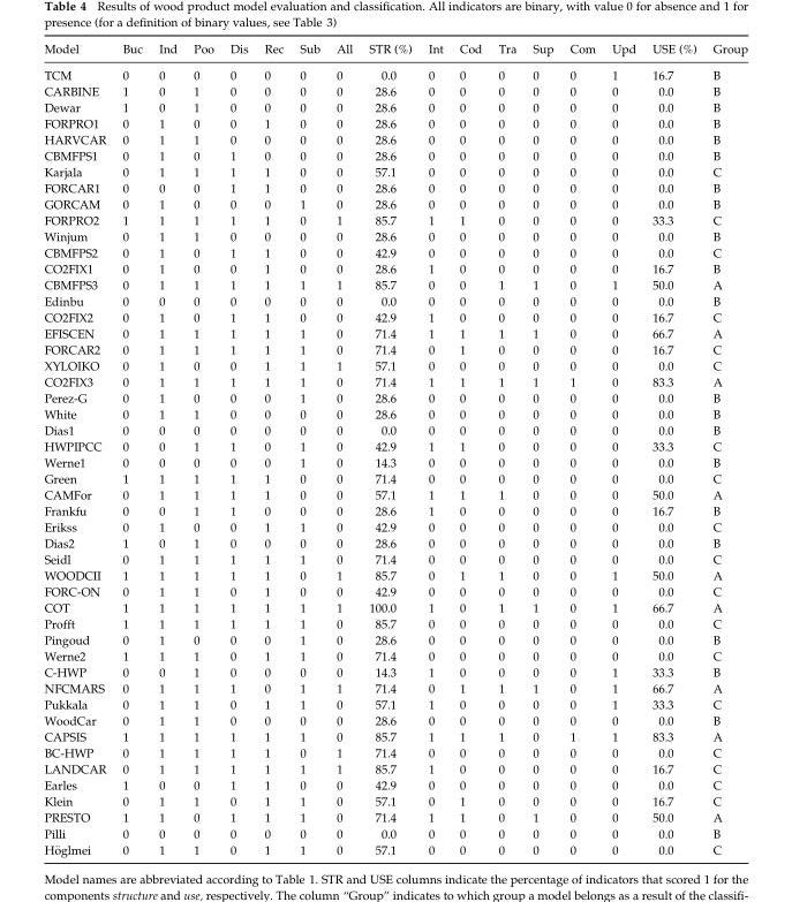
<table><thead><tr><td>Model</td><td>Buc</td><td>Ind</td><td>Poo</td><td>Dis</td><td>Rec</td><td>Sub</td><td>All</td><td>STR (%)</td><td>Int</td><td>Cod</td><td>Tra</td><td>Sup</td><td>Com</td><td>Upd</td><td>USE (%)</td><td>Group</td></tr></thead><tbody><tr><td>TCM</td><td>0</td><td>0</td><td>0</td><td>0</td><td>0</td><td>0</td><td>0</td><td>0.0</td><td>0</td><td>0</td><td>0</td><td>0</td><td>0</td><td>1</td><td>16.7</td><td>B</td></tr><tr><td>CARBINE</td><td>1</td><td>0</td><td>1</td><td>0</td><td>0</td><td>0</td><td>0</td><td>28.6</td><td>0</td><td>0</td><td>0</td><td>0</td><td>0</td><td>0</td><td>0.0</td><td>B</td></tr><tr><td>Dewar</td><td>1</td><td>0</td><td>1</td><td>0</td><td>0</td><td>0</td><td>0</td><td>28.6</td><td>0</td><td>0</td><td>0</td><td>0</td><td>0</td><td>0</td><td>0.0</td><td>B</td></tr><tr><td>FORPRO1</td><td>0</td><td>1</td><td>0</td><td>0</td><td>1</td><td>0</td><td>0</td><td>28.6</td><td>0</td><td>0</td><td>0</td><td>0</td><td>0</td><td>0</td><td>0.0</td><td>B</td></tr><tr><td>HARVCAR</td><td>0</td><td>1</td><td>1</td><td>0</td><td>0</td><td>0</td><td>0</td><td>28.6</td><td>0</td><td>0</td><td>0</td><td>0</td><td>0</td><td>0</td><td>0.0</td><td>B</td></tr><tr><td>CBMFPS1</td><td>0</td><td>1</td><td>0</td><td>1</td><td>0</td><td>0</td><td>0</td><td>28.6</td><td>0</td><td>0</td><td>0</td><td>0</td><td>0</td><td>0</td><td>0.0</td><td>B</td></tr><tr><td>Karjala</td><td>0</td><td>1</td><td>1</td><td>1</td><td>1</td><td>0</td><td>0</td><td>57.1</td><td>0</td><td>0</td><td>0</td><td>0</td><td>0</td><td>0</td><td>0.0</td><td>C</td></tr><tr><td>FORCAR1</td><td>0</td><td>0</td><td>0</td><td>1</td><td>1</td><td>0</td><td>0</td><td>28.6</td><td>0</td><td>0</td><td>0</td><td>0</td><td>0</td><td>0</td><td>0.0</td><td>B</td></tr><tr><td>GORCAM</td><td>0</td><td>1</td><td>0</td><td>0</td><td>0</td><td>1</td><td>0</td><td>28.6</td><td>0</td><td>0</td><td>0</td><td>0</td><td>0</td><td>0</td><td>0.0</td><td>B</td></tr><tr><td>FORPRO2</td><td>1</td><td>1</td><td>1</td><td>1</td><td>1</td><td>0</td><td>1</td><td>85.7</td><td>1</td><td>1</td><td>0</td><td>0</td><td>0</td><td>0</td><td>33.3</td><td>C</td></tr><tr><td>Winjum</td><td>0</td><td>1</td><td>1</td><td>0</td><td>0</td><td>0</td><td>0</td><td>28.6</td><td>0</td><td>0</td><td>0</td><td>0</td><td>0</td><td>0</td><td>0.0</td><td>B</td></tr><tr><td>CBMFPS2</td><td>0</td><td>1</td><td>0</td><td>1</td><td>1</td><td>0</td><td>0</td><td>42.9</td><td>0</td><td>0</td><td>0</td><td>0</td><td>0</td><td>0</td><td>0.0</td><td>C</td></tr><tr><td>CO2FIX1</td><td>0</td><td>1</td><td>0</td><td>0</td><td>1</td><td>0</td><td>0</td><td>28.6</td><td>1</td><td>0</td><td>0</td><td>0</td><td>0</td><td>0</td><td>16.7</td><td>B</td></tr><tr><td>CBMFPS3</td><td>0</td><td>1</td><td>1</td><td>1</td><td>1</td><td>1</td><td>1</td><td>85.7</td><td>0</td><td>0</td><td>1</td><td>1</td><td>0</td><td>1</td><td>50.0</td><td>A</td></tr><tr><td>Edinbu</td><td>0</td><td>0</td><td>0</td><td>0</td><td>0</td><td>0</td><td>0</td><td>0.0</td><td>0</td><td>0</td><td>0</td><td>0</td><td>0</td><td>0</td><td>0.0</td><td>B</td></tr><tr><td>CO2FIX2</td><td>0</td><td>1</td><td>0</td><td>1</td><td>1</td><td>0</td><td>0</td><td>42.9</td><td>1</td><td>0</td><td>0</td><td>0</td><td>0</td><td>0</td><td>16.7</td><td>C</td></tr><tr><td>EFISCEN</td><td>0</td><td>1</td><td>1</td><td>1</td><td>1</td><td>1</td><td>0</td><td>71.4</td><td>1</td><td>1</td><td>1</td><td>1</td><td>0</td><td>0</td><td>66.7</td><td>A</td></tr><tr><td>FORCAR2</td><td>0</td><td>1</td><td>1</td><td>1</td><td>1</td><td>1</td><td>0</td><td>71.4</td><td>0</td><td>1</td><td>0</td><td>0</td><td>0</td><td>0</td><td>16.7</td><td>C</td></tr><tr><td>XYLOIKO</td><td>0</td><td>1</td><td>0</td><td>0</td><td>1</td><td>1</td><td>1</td><td>57.1</td><td>0</td><td>0</td><td>0</td><td>0</td><td>0</td><td>0</td><td>0.0</td><td>C</td></tr><tr><td>CO2FIX3</td><td>0</td><td>1</td><td>1</td><td>1</td><td>1</td><td>1</td><td>0</td><td>71.4</td><td>1</td><td>1</td><td>1</td><td>1</td><td>1</td><td>0</td><td>83.3</td><td>A</td></tr><tr><td>Perez-G</td><td>0</td><td>1</td><td>0</td><td>0</td><td>0</td><td>1</td><td>0</td><td>28.6</td><td>0</td><td>0</td><td>0</td><td>0</td><td>0</td><td>0</td><td>0.0</td><td>B</td></tr><tr><td>White</td><td>0</td><td>1</td><td>1</td><td>0</td><td>0</td><td>0</td><td>0</td><td>28.6</td><td>0</td><td>0</td><td>0</td><td>0</td><td>0</td><td>0</td><td>0.0</td><td>B</td></tr><tr><td>Dias1</td><td>0</td><td>0</td><td>0</td><td>0</td><td>0</td><td>0</td><td>0</td><td>0.0</td><td>0</td><td>0</td><td>0</td><td>0</td><td>0</td><td>0</td><td>0.0</td><td>B</td></tr><tr><td>HWPIPCC</td><td>0</td><td>0</td><td>1</td><td>1</td><td>0</td><td>1</td><td>0</td><td>42.9</td><td>1</td><td>1</td><td>0</td><td>0</td><td>0</td><td>0</td><td>33.3</td><td>C</td></tr><tr><td>Werne1</td><td>0</td><td>0</td><td>0</td><td>0</td><td>0</td><td>1</td><td>0</td><td>14.3</td><td>0</td><td>0</td><td>0</td><td>0</td><td>0</td><td>0</td><td>0.0</td><td>B</td></tr><tr><td>Green</td><td>1</td><td>1</td><td>1</td><td>1</td><td>1</td><td>0</td><td>0</td><td>71.4</td><td>0</td><td>0</td><td>0</td><td>0</td><td>0</td><td>0</td><td>0.0</td><td>C</td></tr><tr><td>CAMFor</td><td>0</td><td>1</td><td>1</td><td>1</td><td>1</td><td>0</td><td>0</td><td>57.1</td><td>1</td><td>1</td><td>1</td><td>0</td><td>0</td><td>0</td><td>50.0</td><td>A</td></tr><tr><td>Frankfu</td><td>0</td><td>0</td><td>1</td><td>1</td><td>0</td><td>0</td><td>0</td><td>28.6</td><td>1</td><td>0</td><td>0</td><td>0</td><td>0</td><td>0</td><td>16.7</td><td>B</td></tr><tr><td>Erikss</td><td>0</td><td>1</td><td>0</td><td>0</td><td>1</td><td>1</td><td>0</td><td>42.9</td><td>0</td><td>0</td><td>0</td><td>0</td><td>0</td><td>0</td><td>0.0</td><td>C</td></tr><tr><td>Dias2</td><td>1</td><td>0</td><td>1</td><td>0</td><td>0</td><td>0</td><td>0</td><td>28.6</td><td>0</td><td>0</td><td>0</td><td>0</td><td>0</td><td>0</td><td>0.0</td><td>B</td></tr><tr><td>Seidl</td><td>0</td><td>1</td><td>1</td><td>1</td><td>1</td><td>1</td><td>0</td><td>71.4</td><td>0</td><td>0</td><td>0</td><td>0</td><td>0</td><td>0</td><td>0.0</td><td>C</td></tr><tr><td>WOODCII</td><td>1</td><td>1</td><td>1</td><td>1</td><td>1</td><td>0</td><td>1</td><td>85.7</td><td>0</td><td>1</td><td>1</td><td>0</td><td>0</td><td>1</td><td>50.0</td><td>A</td></tr><tr><td>FORC-ON</td><td>0</td><td>1</td><td>1</td><td>0</td><td>1</td><td>0</td><td>0</td><td>42.9</td><td>0</td><td>0</td><td>0</td><td>0</td><td>0</td><td>0</td><td>0.0</td><td>C</td></tr><tr><td>COT</td><td>1</td><td>1</td><td>1</td><td>1</td><td>1</td><td>1</td><td>1</td><td>100.0</td><td>1</td><td>0</td><td>1</td><td>1</td><td>0</td><td>1</td><td>66.7</td><td>A</td></tr><tr><td>Profft</td><td>1</td><td>1</td><td>1</td><td>1</td><td>1</td><td>1</td><td>0</td><td>85.7</td><td>0</td><td>0</td><td>0</td><td>0</td><td>0</td><td>0</td><td>0.0</td><td>C</td></tr><tr><td>Pingoud</td><td>0</td><td>1</td><td>0</td><td>0</td><td>0</td><td>1</td><td>0</td><td>28.6</td><td>0</td><td>0</td><td>0</td><td>0</td><td>0</td><td>0</td><td>0.0</td><td>B</td></tr><tr><td>Werne2</td><td>1</td><td>1</td><td>1</td><td>0</td><td>1</td><td>1</td><td>0</td><td>71.4</td><td>0</td><td>0</td><td>0</td><td>0</td><td>0</td><td>0</td><td>0.0</td><td>C</td></tr><tr><td>C-HWP</td><td>0</td><td>0</td><td>1</td><td>0</td><td>0</td><td>0</td><td>0</td><td>14.3</td><td>1</td><td>0</td><td>0</td><td>0</td><td>0</td><td>1</td><td>33.3</td><td>B</td></tr><tr><td>NFCMARS</td><td>0</td><td>1</td><td>1</td><td>1</td><td>0</td><td>1</td><td>1</td><td>71.4</td><td>0</td><td>1</td><td>1</td><td>1</td><td>0</td><td>1</td><td>66.7</td><td>A</td></tr><tr><td>Pukkala</td><td>0</td><td>1</td><td>1</td><td>0</td><td>1</td><td>1</td><td>0</td><td>57.1</td><td>1</td><td>0</td><td>0</td><td>0</td><td>0</td><td>1</td><td>33.3</td><td>C</td></tr><tr><td>WoodCar</td><td>0</td><td>1</td><td>1</td><td>0</td><td>0</td><td>0</td><td>0</td><td>28.6</td><td>0</td><td>0</td><td>0</td><td>0</td><td>0</td><td>0</td><td>0.0</td><td>B</td></tr><tr><td>CAPSIS</td><td>1</td><td>1</td><td>1</td><td>1</td><td>1</td><td>1</td><td>0</td><td>85.7</td><td>1</td><td>1</td><td>1</td><td>0</td><td>1</td><td>1</td><td>83.3</td><td>A</td></tr><tr><td>BC-HWP</td><td>0</td><td>1</td><td>1</td><td>1</td><td>1</td><td>0</td><td>1</td><td>71.4</td><td>0</td><td>0</td><td>0</td><td>0</td><td>0</td><td>0</td><td>0.0</td><td>C</td></tr><tr><td>LANDCAR</td><td>0</td><td>1</td><td>1</td><td>1</td><td>1</td><td>1</td><td>1</td><td>85.7</td><td>1</td><td>0</td><td>0</td><td>0</td><td>0</td><td>0</td><td>16.7</td><td>C</td></tr><tr><td>Earles</td><td>1</td><td>0</td><td>0</td><td>1</td><td>1</td><td>0</td><td>0</td><td>42.9</td><td>0</td><td>0</td><td>0</td><td>0</td><td>0</td><td>0</td><td>0.0</td><td>C</td></tr><tr><td>Klein</td><td>0</td><td>1</td><td>1</td><td>0</td><td>1</td><td>1</td><td>0</td><td>57.1</td><td>0</td><td>1</td><td>0</td><td>0</td><td>0</td><td>0</td><td>16.7</td><td>C</td></tr><tr><td>PRESTO</td><td>1</td><td>1</td><td>0</td><td>1</td><td>1</td><td>1</td><td>0</td><td>71.4</td><td>1</td><td>1</td><td>0</td><td>1</td><td>0</td><td>0</td><td>50.0</td><td>A</td></tr><tr><td>Pilli</td><td>0</td><td>0</td><td>0</td><td>0</td><td>0</td><td>0</td><td>0</td><td>0.0</td><td>0</td><td>0</td><td>0</td><td>0</td><td>0</td><td>0</td><td>0.0</td><td>B</td></tr><tr><td>H€oglmei</td><td>0</td><td>1</td><td>1</td><td>0</td><td>1</td><td>1</td><td>0</td><td>57.1</td><td>0</td><td>0</td><td>0</td><td>0</td><td>0</td><td>0</td><td>0.0</td><td>C</td></tr></tbody></table>